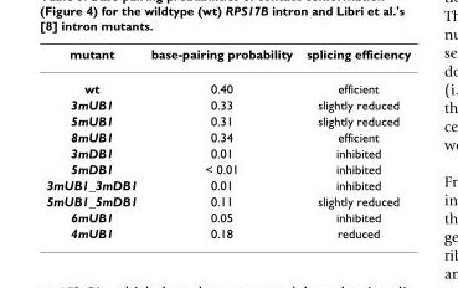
<table><thead><tr><td>mutant</td><td>base-pairing probability</td><td>splicing efficiency</td></tr></thead><tbody><tr><td>wt</td><td>0.40</td><td>efficient</td></tr><tr><td>3mUB1</td><td>0.33</td><td>slightly reduced</td></tr><tr><td>5mUB1</td><td>0.31</td><td>slightly reduced</td></tr><tr><td>8mUB1</td><td>0.34</td><td>efficient</td></tr><tr><td>3mDB1</td><td>0.01</td><td>inhibited</td></tr><tr><td>5mDB1</td><td>&lt; 0.01</td><td>inhibited</td></tr><tr><td>3mUB1_3mDB1</td><td>0.01</td><td>inhibited</td></tr><tr><td>5mUB1_5mDB1</td><td>0.11</td><td>slightly reduced</td></tr><tr><td>6mUB1</td><td>0.05</td><td>inhibited</td></tr><tr><td>4mUB1</td><td>0.18</td><td>reduced</td></tr></tbody></table>